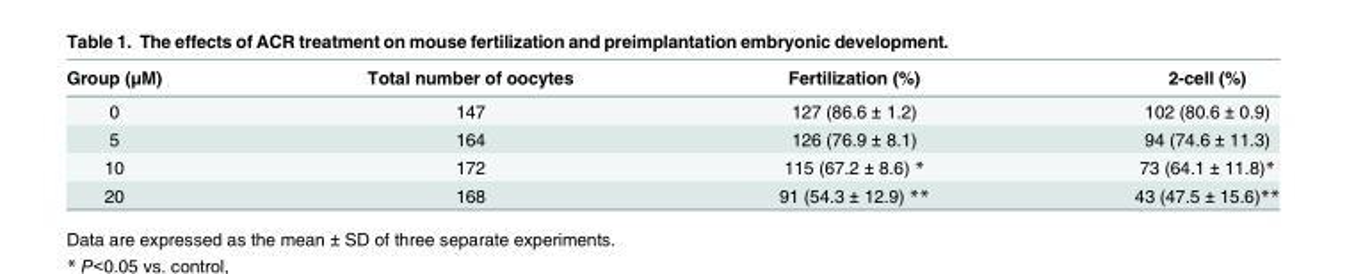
<table><thead><tr><td>Group (μM)</td><td>Total number of oocytes</td><td>Fertilization (%)</td><td>2-cell (%)</td></tr></thead><tbody><tr><td>0</td><td>147</td><td>127 (86.6 ± 1.2)</td><td>102 (80.6 ± 0.9)</td></tr><tr><td>5</td><td>164</td><td>126 (76.9 ± 8.1)</td><td>94 (74.6 ± 11.3)</td></tr><tr><td>10</td><td>172</td><td>115 (67.2 ± 8.6) *</td><td>73 (64.1 ± 11.8)*</td></tr><tr><td>20</td><td>168</td><td>91 (54.3 ± 12.9) **</td><td>43 (47.5 ± 15.6)**</td></tr></tbody></table>